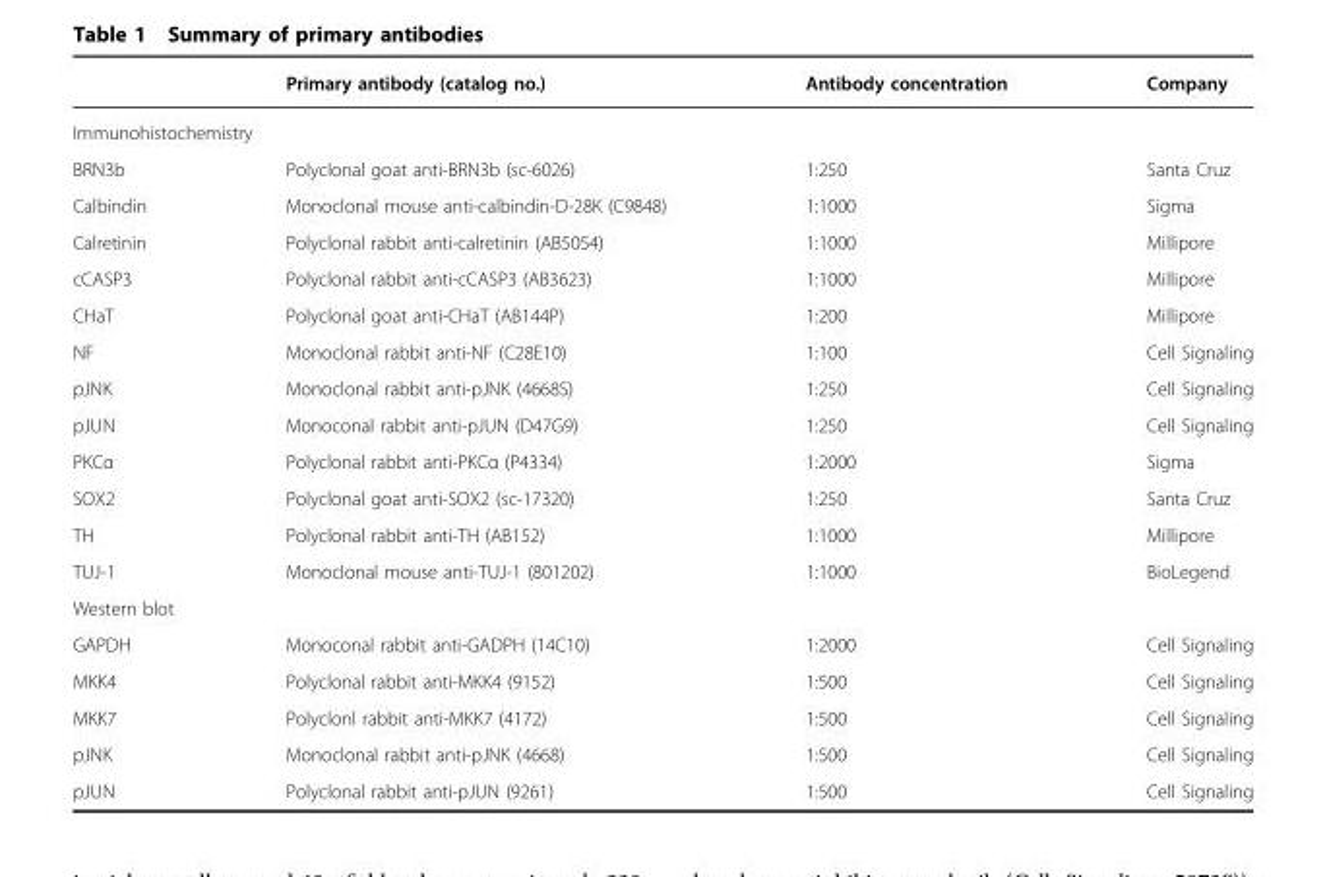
<table><thead><tr><td></td><td>Primary antibody (catalog no.)</td><td>Antibody concentration</td><td>Company</td></tr></thead><tbody><tr><td colspan="4">Immunohistochemistry</td></tr><tr><td>BRN3b</td><td>Polyclonal goat anti-BRN3b (sc-6026)</td><td>1:250</td><td>Santa Cruz</td></tr><tr><td>Calbindin</td><td>Monoclonal mouse anti-calbindin-D-28K (C9848)</td><td>1:1000</td><td>Sigma</td></tr><tr><td>Calretinin</td><td>Polyclonal rabbit anti-calretinin (AB5054)</td><td>1:1000</td><td>Millipore</td></tr><tr><td>cCASP3</td><td>Polyclonal rabbit anti-cCASP3 (AB3623)</td><td>1:1000</td><td>Millipore</td></tr><tr><td>CHaT</td><td>Polyclonal goat anti-CHaT (AB144P)</td><td>1:200</td><td>Millipore</td></tr><tr><td>NF</td><td>Monoclonal rabbit anti-NF (C28E10)</td><td>1:100</td><td>Cell Signaling</td></tr><tr><td>pJNK</td><td>Monoclonal rabbit anti-pJNK (4668S)</td><td>1:250</td><td>Cell Signaling</td></tr><tr><td>pJUN</td><td>Monoconal rabbit anti-pJUN (D47G9)</td><td>1:250</td><td>Cell Signaling</td></tr><tr><td>PKCα</td><td>Polyclonal rabbit anti-PKCα (P4334)</td><td>1:2000</td><td>Sigma</td></tr><tr><td>SOX2</td><td>Polyclonal goat anti-SOX2 (sc-17320)</td><td>1:250</td><td>Santa Cruz</td></tr><tr><td>TH</td><td>Polyclonal rabbit anti-TH (AB152)</td><td>1:1000</td><td>Millipore</td></tr><tr><td>TUJ-1</td><td>Monoclonal mouse anti-TUJ-1 (801202)</td><td>1:1000</td><td>BioLegend</td></tr><tr><td colspan="4">Western blot</td></tr><tr><td>GAPDH</td><td>Monoconal rabbit anti-GADPH (14C10)</td><td>1:2000</td><td>Cell Signaling</td></tr><tr><td>MKK4</td><td>Polyclonal rabbit anti-MKK4 (9152)</td><td>1:500</td><td>Cell Signaling</td></tr><tr><td>MKK7</td><td>Polyclonl rabbit anti-MKK7 (4172)</td><td>1:500</td><td>Cell Signaling</td></tr><tr><td>pJNK</td><td>Monoclonal rabbit anti-pJNK (4668)</td><td>1:500</td><td>Cell Signaling</td></tr><tr><td>pJUN</td><td>Polyclonal rabbit anti-pJUN (9261)</td><td>1:500</td><td>Cell Signaling</td></tr></tbody></table>